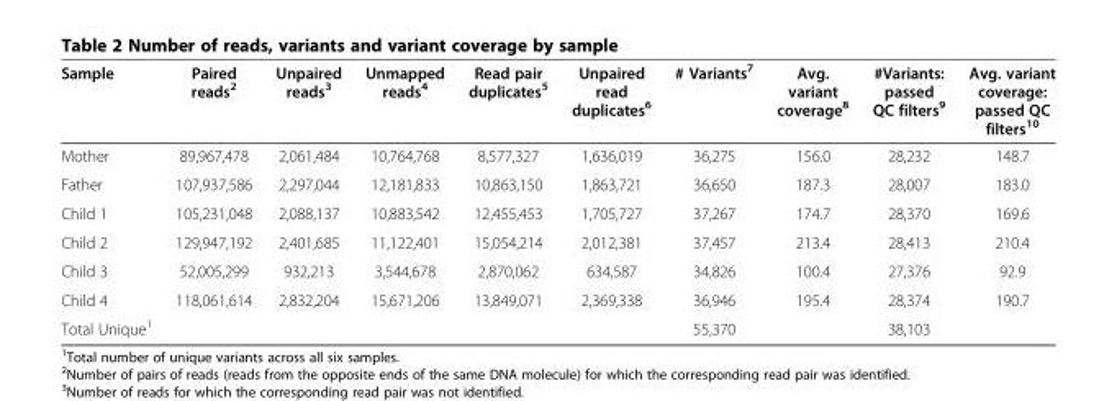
<table><thead><tr><td>Sample</td><td>Paired reads<sup>2</sup></td><td>Unpaired reads<sup>3</sup></td><td>Unmapped reads<sup>4</sup></td><td>Read pair duplicates<sup>5</sup></td><td>Unpaired read duplicates<sup>6</sup></td><td># Variants<sup>7</sup></td><td>Avg. variant coverage<sup>8</sup></td><td>#Variants: passed QC filters<sup>9</sup></td><td>Avg. variant coverage: passed QC filters<sup>10</sup></td></tr></thead><tbody><tr><td>Mother</td><td>89,967,478</td><td>2,061,484</td><td>10,764,768</td><td>8,577,327</td><td>1,636,019</td><td>36,275</td><td>156.0</td><td>28,232</td><td>148.7</td></tr><tr><td>Father</td><td>107,937,586</td><td>2,297,044</td><td>12,181,833</td><td>10,863,150</td><td>1,863,721</td><td>36,650</td><td>187.3</td><td>28,007</td><td>183.0</td></tr><tr><td>Child 1</td><td>105,231,048</td><td>2,088,137</td><td>10,883,542</td><td>12,455,453</td><td>1,705,727</td><td>37,267</td><td>174.7</td><td>28,370</td><td>169.6</td></tr><tr><td>Child 2</td><td>129,947,192</td><td>2,401,685</td><td>11,122,401</td><td>15,054,214</td><td>2,012,381</td><td>37,457</td><td>213.4</td><td>28,413</td><td>210.4</td></tr><tr><td>Child 3</td><td>52,005,299</td><td>932,213</td><td>3,544,678</td><td>2,870,062</td><td>634,587</td><td>34,826</td><td>100.4</td><td>27,376</td><td>92.9</td></tr><tr><td>Child 4</td><td>118,061,614</td><td>2,832,204</td><td>15,671,206</td><td>13,849,071</td><td>2,369,338</td><td>36,946</td><td>195.4</td><td>28,374</td><td>190.7</td></tr><tr><td>Total Unique<sup>1</sup></td><td></td><td></td><td></td><td></td><td></td><td>55,370</td><td></td><td>38,103</td><td></td></tr></tbody></table>